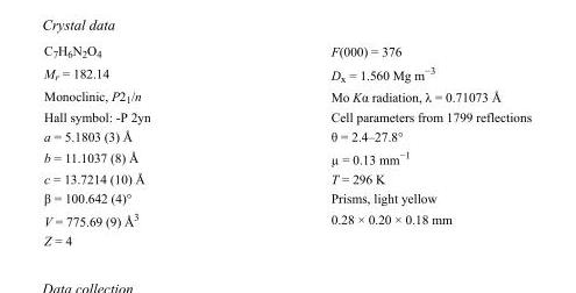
<table><tbody><tr><td>C<sub>7</sub>H<sub>6</sub>N<sub>2</sub>O<sub>4</sub></td><td>F(000) = 376</td></tr><tr><td>M<sub>r</sub> = 182.14</td><td>D<sub>x</sub> = 1.560 Mg m<sup>−3</sup></td></tr><tr><td>Monoclinic, P2<sub>1</sub>/n</td><td>Mo Kα radiation, λ = 0.71073 Å</td></tr><tr><td>Hall symbol: -P 2yn</td><td>Cell parameters from 1799 reflections</td></tr><tr><td>a = 5.1803 (3) Å</td><td>θ = 2.4–27.8°</td></tr><tr><td>b = 11.1037 (8) Å</td><td>µ = 0.13 mm<sup>−1</sup></td></tr><tr><td>c = 13.7214 (10) Å</td><td>T = 296 K</td></tr><tr><td>β = 100.642 (4)°</td><td>Prisms, light yellow</td></tr><tr><td>V = 775.69 (9) Å<sup>3</sup></td><td>0.28 × 0.20 × 0.18 mm</td></tr><tr><td>Z = 4</td><td></td></tr></tbody></table>